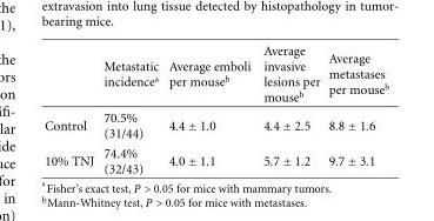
<table><thead><tr><td></td><td>Metastatic incidence<sup>a</sup></td><td>Average emboli per mouse<sup>b</sup></td><td>Average invasive lesions per mouse<sup>b</sup></td><td>Average metastases per mouse<sup>b</sup></td></tr></thead><tbody><tr><td>Control</td><td>70.5% (31/44)</td><td>4.4 ± 1.0</td><td>4.4 ± 2.5</td><td>8.8 ± 1.6</td></tr><tr><td>10% TNJ</td><td>74.4% (32/43)</td><td>4.0 ± 1.1</td><td>5.7 ± 1.2</td><td>9.7 ± 3.1</td></tr></tbody></table>